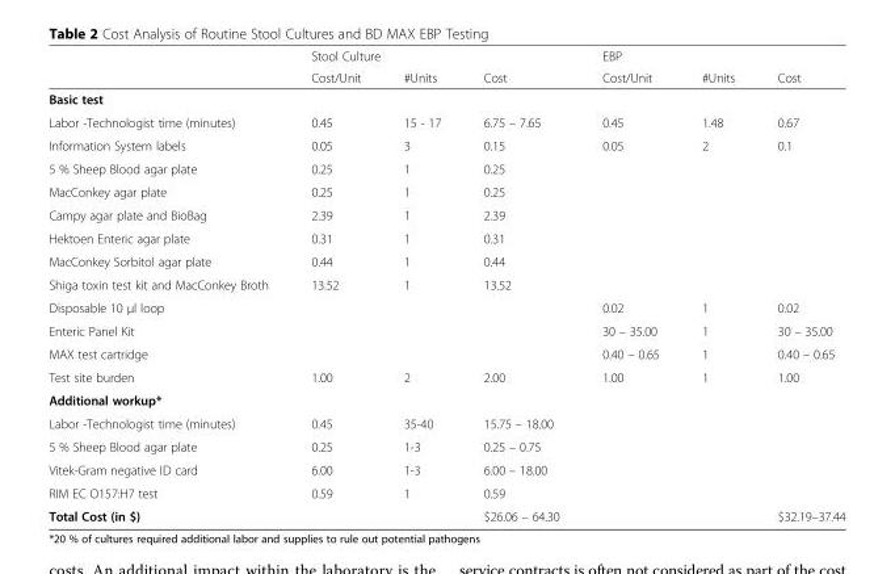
<table><thead><tr><td rowspan="2"></td><td colspan="3">Stool Culture</td><td colspan="3">EBP</td></tr><tr><td>Cost/Unit</td><td>#Units</td><td>Cost</td><td>Cost/Unit</td><td>#Units</td><td>Cost</td></tr></thead><tbody><tr><td colspan="7">Basic test</td></tr><tr><td>Labor -Technologist time (minutes)</td><td>0.45</td><td>15 - 17</td><td>6.75 – 7.65</td><td>0.45</td><td>1.48</td><td>0.67</td></tr><tr><td>Information System labels</td><td>0.05</td><td>3</td><td>0.15</td><td>0.05</td><td>2</td><td>0.1</td></tr><tr><td>5 % Sheep Blood agar plate</td><td>0.25</td><td>1</td><td>0.25</td><td></td><td></td><td></td></tr><tr><td>MacConkey agar plate</td><td>0.25</td><td>1</td><td>0.25</td><td></td><td></td><td></td></tr><tr><td>Campy agar plate and BioBag</td><td>2.39</td><td>1</td><td>2.39</td><td></td><td></td><td></td></tr><tr><td>Hektoen Enteric agar plate</td><td>0.31</td><td>1</td><td>0.31</td><td></td><td></td><td></td></tr><tr><td>MacConkey Sorbitol agar plate</td><td>0.44</td><td>1</td><td>0.44</td><td></td><td></td><td></td></tr><tr><td>Shiga toxin test kit and MacConkey Broth</td><td>13.52</td><td>1</td><td>13.52</td><td></td><td></td><td></td></tr><tr><td>Disposable 10 μl loop</td><td></td><td></td><td></td><td>0.02</td><td>1</td><td>0.02</td></tr><tr><td>Enteric Panel Kit</td><td></td><td></td><td></td><td>30 – 35.00</td><td>1</td><td>30 – 35.00</td></tr><tr><td>MAX test cartridge</td><td></td><td></td><td></td><td>0.40 – 0.65</td><td>1</td><td>0.40 – 0.65</td></tr><tr><td>Test site burden</td><td>1.00</td><td>2</td><td>2.00</td><td>1.00</td><td>1</td><td>1.00</td></tr><tr><td colspan="7">Additional workup*</td></tr><tr><td>Labor -Technologist time (minutes)</td><td>0.45</td><td>35-40</td><td>15.75 – 18.00</td><td></td><td></td><td></td></tr><tr><td>5 % Sheep Blood agar plate</td><td>0.25</td><td>1-3</td><td>0.25 – 0.75</td><td></td><td></td><td></td></tr><tr><td>Vitek-Gram negative ID card</td><td>6.00</td><td>1-3</td><td>6.00 – 18.00</td><td></td><td></td><td></td></tr><tr><td>RIM EC O157:H7 test</td><td>0.59</td><td>1</td><td>0.59</td><td></td><td></td><td></td></tr><tr><td>Total Cost (in $)</td><td></td><td></td><td>$26.06 – 64.30</td><td></td><td></td><td>$32.19–37.44</td></tr></tbody></table>